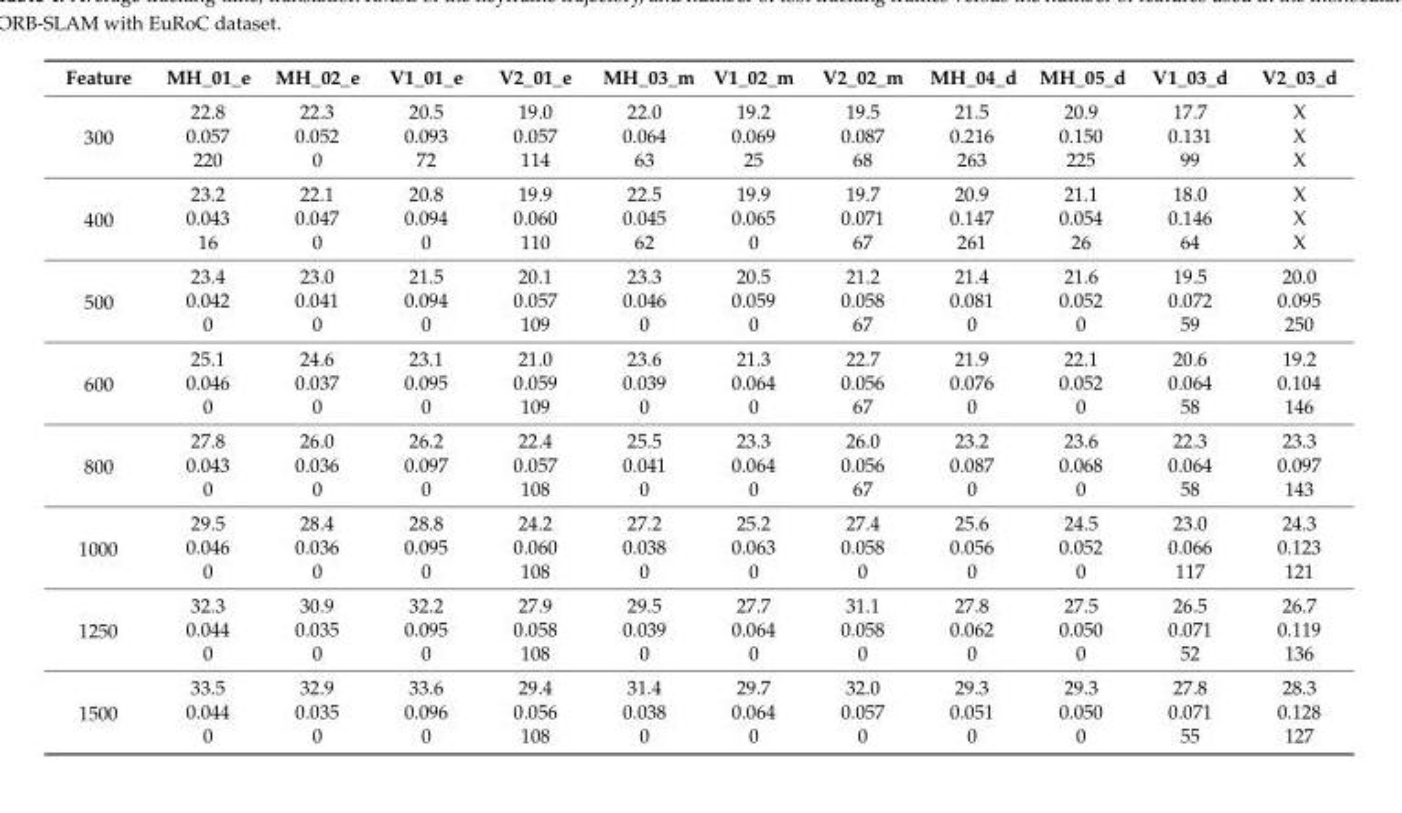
<table><thead><tr><td>Feature</td><td>MH_01_e</td><td>MH_02_e</td><td>V1_01_e</td><td>V2_01_e</td><td>MH_03_m</td><td>V1_02_m</td><td>V2_02_m</td><td>MH_04_d</td><td>MH_05_d</td><td>V1_03_d</td><td>V2_03_d</td></tr></thead><tbody><tr><td rowspan="3">300</td><td>22.8</td><td>22.3</td><td>20.5</td><td>19.0</td><td>22.0</td><td>19.2</td><td>19.5</td><td>21.5</td><td>20.9</td><td>17.7</td><td>X</td></tr><tr><td>0.057</td><td>0.052</td><td>0.093</td><td>0.057</td><td>0.064</td><td>0.069</td><td>0.087</td><td>0.216</td><td>0.150</td><td>0.131</td><td>X</td></tr><tr><td>220</td><td>0</td><td>72</td><td>114</td><td>63</td><td>25</td><td>68</td><td>263</td><td>225</td><td>99</td><td>X</td></tr><tr><td rowspan="3">400</td><td>23.2</td><td>22.1</td><td>20.8</td><td>19.9</td><td>22.5</td><td>19.9</td><td>19.7</td><td>20.9</td><td>21.1</td><td>18.0</td><td>X</td></tr><tr><td>0.043</td><td>0.047</td><td>0.094</td><td>0.060</td><td>0.045</td><td>0.065</td><td>0.071</td><td>0.147</td><td>0.054</td><td>0.146</td><td>X</td></tr><tr><td>16</td><td>0</td><td>0</td><td>110</td><td>62</td><td>0</td><td>67</td><td>261</td><td>26</td><td>64</td><td>X</td></tr><tr><td rowspan="3">500</td><td>23.4</td><td>23.0</td><td>21.5</td><td>20.1</td><td>23.3</td><td>20.5</td><td>21.2</td><td>21.4</td><td>21.6</td><td>19.5</td><td>20.0</td></tr><tr><td>0.042</td><td>0.041</td><td>0.094</td><td>0.057</td><td>0.046</td><td>0.059</td><td>0.058</td><td>0.081</td><td>0.052</td><td>0.072</td><td>0.095</td></tr><tr><td>0</td><td>0</td><td>0</td><td>109</td><td>0</td><td>0</td><td>67</td><td>0</td><td>0</td><td>59</td><td>250</td></tr><tr><td rowspan="3">600</td><td>25.1</td><td>24.6</td><td>23.1</td><td>21.0</td><td>23.6</td><td>21.3</td><td>22.7</td><td>21.9</td><td>22.1</td><td>20.6</td><td>19.2</td></tr><tr><td>0.046</td><td>0.037</td><td>0.095</td><td>0.059</td><td>0.039</td><td>0.064</td><td>0.056</td><td>0.076</td><td>0.052</td><td>0.064</td><td>0.104</td></tr><tr><td>0</td><td>0</td><td>0</td><td>109</td><td>0</td><td>0</td><td>67</td><td>0</td><td>0</td><td>58</td><td>146</td></tr><tr><td rowspan="3">800</td><td>27.8</td><td>26.0</td><td>26.2</td><td>22.4</td><td>25.5</td><td>23.3</td><td>26.0</td><td>23.2</td><td>23.6</td><td>22.3</td><td>23.3</td></tr><tr><td>0.043</td><td>0.036</td><td>0.097</td><td>0.057</td><td>0.041</td><td>0.064</td><td>0.056</td><td>0.087</td><td>0.068</td><td>0.064</td><td>0.097</td></tr><tr><td>0</td><td>0</td><td>0</td><td>108</td><td>0</td><td>0</td><td>67</td><td>0</td><td>0</td><td>58</td><td>143</td></tr><tr><td rowspan="3">1000</td><td>29.5</td><td>28.4</td><td>28.8</td><td>24.2</td><td>27.2</td><td>25.2</td><td>27.4</td><td>25.6</td><td>24.5</td><td>23.0</td><td>24.3</td></tr><tr><td>0.046</td><td>0.036</td><td>0.095</td><td>0.060</td><td>0.038</td><td>0.063</td><td>0.058</td><td>0.056</td><td>0.052</td><td>0.066</td><td>0.123</td></tr><tr><td>0</td><td>0</td><td>0</td><td>108</td><td>0</td><td>0</td><td>0</td><td>0</td><td>0</td><td>117</td><td>121</td></tr><tr><td rowspan="3">1250</td><td>32.3</td><td>30.9</td><td>32.2</td><td>27.9</td><td>29.5</td><td>27.7</td><td>31.1</td><td>27.8</td><td>27.5</td><td>26.5</td><td>26.7</td></tr><tr><td>0.044</td><td>0.035</td><td>0.095</td><td>0.058</td><td>0.039</td><td>0.064</td><td>0.058</td><td>0.062</td><td>0.050</td><td>0.071</td><td>0.119</td></tr><tr><td>0</td><td>0</td><td>0</td><td>108</td><td>0</td><td>0</td><td>0</td><td>0</td><td>0</td><td>52</td><td>136</td></tr><tr><td rowspan="3">1500</td><td>33.5</td><td>32.9</td><td>33.6</td><td>29.4</td><td>31.4</td><td>29.7</td><td>32.0</td><td>29.3</td><td>29.3</td><td>27.8</td><td>28.3</td></tr><tr><td>0.044</td><td>0.035</td><td>0.096</td><td>0.056</td><td>0.038</td><td>0.064</td><td>0.057</td><td>0.051</td><td>0.050</td><td>0.071</td><td>0.128</td></tr><tr><td>0</td><td>0</td><td>0</td><td>108</td><td>0</td><td>0</td><td>0</td><td>0</td><td>0</td><td>55</td><td>127</td></tr></tbody></table>